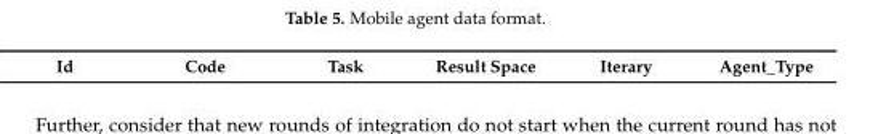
<table><tbody><tr><td>Id</td><td>Code</td><td>Task</td><td>Result Space</td><td>Iterary</td><td>Agent_Type</td></tr></tbody></table>